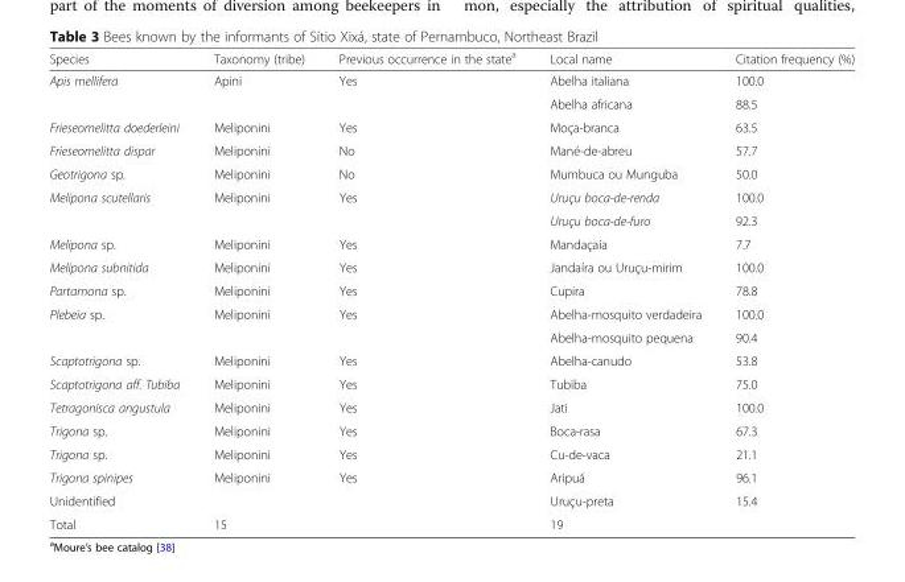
<table><thead><tr><td>Species</td><td>Taxonomy (tribe)</td><td>Previous occurrence in the state<sup>a</sup></td><td>Local name</td><td>Citation frequency (%)</td></tr></thead><tbody><tr><td rowspan="2">Apis mellifera</td><td rowspan="2">Apini</td><td rowspan="2">Yes</td><td>Abelha italiana</td><td>100.0</td></tr><tr><td>Abelha africana</td><td>88.5</td></tr><tr><td>Frieseomelitta doederleini</td><td>Meliponini</td><td>Yes</td><td>Moça-branca</td><td>63.5</td></tr><tr><td>Frieseomelitta dispar</td><td>Meliponini</td><td>No</td><td>Mané-de-abreu</td><td>57.7</td></tr><tr><td>Geotrigona sp.</td><td>Meliponini</td><td>No</td><td>Mumbuca ou Munguba</td><td>50.0</td></tr><tr><td rowspan="2">Melipona scutellaris</td><td rowspan="2">Meliponini</td><td rowspan="2">Yes</td><td>Uruçu boca-de-renda</td><td>100.0</td></tr><tr><td>Uruçu boca-de-furo</td><td>92.3</td></tr><tr><td>Melipona sp.</td><td>Meliponini</td><td>Yes</td><td>Mandaçaia</td><td>7.7</td></tr><tr><td>Melipona subnitida</td><td>Meliponini</td><td>Yes</td><td>Jandaíra ou Uruçu-mirim</td><td>100.0</td></tr><tr><td>Partamona sp.</td><td>Meliponini</td><td>Yes</td><td>Cupira</td><td>78.8</td></tr><tr><td rowspan="2">Plebeia sp.</td><td rowspan="2">Meliponini</td><td rowspan="2">Yes</td><td>Abelha-mosquito verdadeira</td><td>100.0</td></tr><tr><td>Abelha-mosquito pequena</td><td>90.4</td></tr><tr><td>Scaptotrigona sp.</td><td>Meliponini</td><td>Yes</td><td>Abelha-canudo</td><td>53.8</td></tr><tr><td>Scaptotrigona aff. Tubiba</td><td>Meliponini</td><td>Yes</td><td>Tubiba</td><td>75.0</td></tr><tr><td>Tetragonisca angustula</td><td>Meliponini</td><td>Yes</td><td>Jati</td><td>100.0</td></tr><tr><td>Trigona sp.</td><td>Meliponini</td><td>Yes</td><td>Boca-rasa</td><td>67.3</td></tr><tr><td>Trigona sp.</td><td>Meliponini</td><td>Yes</td><td>Cu-de-vaca</td><td>21.1</td></tr><tr><td>Trigona spinipes</td><td>Meliponini</td><td>Yes</td><td>Aripuá</td><td>96.1</td></tr><tr><td>Unidentified</td><td></td><td></td><td>Uruçu-preta</td><td>15.4</td></tr><tr><td>Total</td><td>15</td><td></td><td>19</td><td></td></tr></tbody></table>